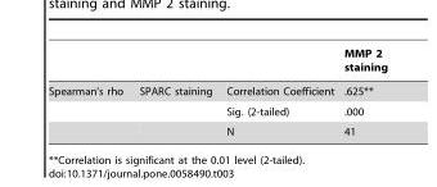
<table><thead><tr><td></td><td></td><td></td><td>MMP 2 staining</td></tr></thead><tbody><tr><td rowspan="3">Spearman’s rho</td><td>SPARC staining</td><td>Correlation Coefficient</td><td>.625**</td></tr><tr><td></td><td>Sig. (2-tailed)</td><td>.000</td></tr><tr><td></td><td>N</td><td>41</td></tr></tbody></table>